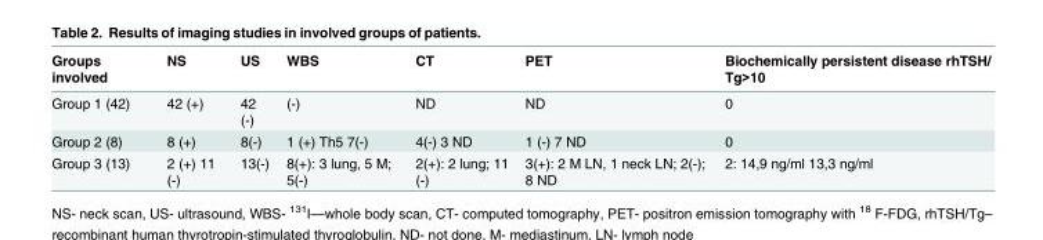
<table><thead><tr><td>Groups involved</td><td>NS</td><td>US</td><td>WBS</td><td>CT</td><td>PET</td><td>Biochemically persistent disease rhTSH/ Tg&gt;10</td></tr></thead><tbody><tr><td>Group 1 (42)</td><td>42 (+)</td><td>42 (-)</td><td>(-)</td><td>ND</td><td>ND</td><td>0</td></tr><tr><td>Group 2 (8)</td><td>8 (+)</td><td>8(-)</td><td>1 (+) Th5 7(-)</td><td>4(-) 3 ND</td><td>1 (-) 7 ND</td><td>0</td></tr><tr><td>Group 3 (13)</td><td>2 (+) 11 (-)</td><td>13(-)</td><td>8(+): 3 lung, 5 M; 5(-)</td><td>2(+): 2 lung; 11 (-)</td><td>3(+): 2 M LN, 1 neck LN; 2(-); 8 ND</td><td>2: 14,9 ng/ml 13,3 ng/ml</td></tr></tbody></table>